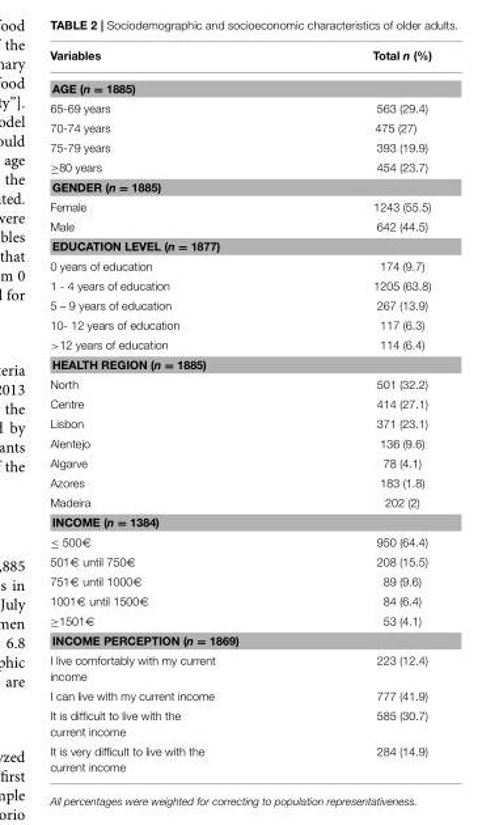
<table><thead><tr><td>Variables</td><td>Total n (%)</td></tr></thead><tbody><tr><td colspan="2">AGE (n = 1885)</td></tr><tr><td>65-69 years</td><td>563 (29.4)</td></tr><tr><td>70-74 years</td><td>475 (27)</td></tr><tr><td>75-79 years</td><td>393 (19.9)</td></tr><tr><td>≥80 years</td><td>454 (23.7)</td></tr><tr><td colspan="2">GENDER (n = 1885)</td></tr><tr><td>Female</td><td>1243 (55.5)</td></tr><tr><td>Male</td><td>642 (44.5)</td></tr><tr><td colspan="2">EDUCATION LEVEL (n = 1877)</td></tr><tr><td>0 years of education</td><td>174 (9.7)</td></tr><tr><td>1 - 4 years of education</td><td>1205 (63.8)</td></tr><tr><td>5 – 9 years of education</td><td>267 (13.9)</td></tr><tr><td>10- 12 years of education</td><td>117 (6.3)</td></tr><tr><td>&gt;12 years of education</td><td>114 (6.4)</td></tr><tr><td colspan="2">HEALTH REGION (n = 1885)</td></tr><tr><td>North</td><td>501 (32.2)</td></tr><tr><td>Centre</td><td>414 (27.1)</td></tr><tr><td>Lisbon</td><td>371 (23.1)</td></tr><tr><td>Alentejo</td><td>136 (9.6)</td></tr><tr><td>Algarve</td><td>78 (4.1)</td></tr><tr><td>Azores</td><td>183 (1.8)</td></tr><tr><td>Madeira</td><td>202 (2)</td></tr><tr><td colspan="2">INCOME (n = 1384)</td></tr><tr><td>≤ 500€</td><td>950 (64.4)</td></tr><tr><td>501€ until 750€</td><td>208 (15.5)</td></tr><tr><td>751€ until 1000€</td><td>89 (9.6)</td></tr><tr><td>1001€ until 1500€</td><td>84 (6.4)</td></tr><tr><td>≥1501€</td><td>53 (4.1)</td></tr><tr><td colspan="2">INCOME PERCEPTION (n = 1869)</td></tr><tr><td>I live comfortably with my current income</td><td>223 (12.4)</td></tr><tr><td>I can live with my current income</td><td>777 (41.9)</td></tr><tr><td>It is difficult to live with the current income</td><td>585 (30.7)</td></tr><tr><td>It is very difficult to live with the current income</td><td>284 (14.9)</td></tr></tbody></table>